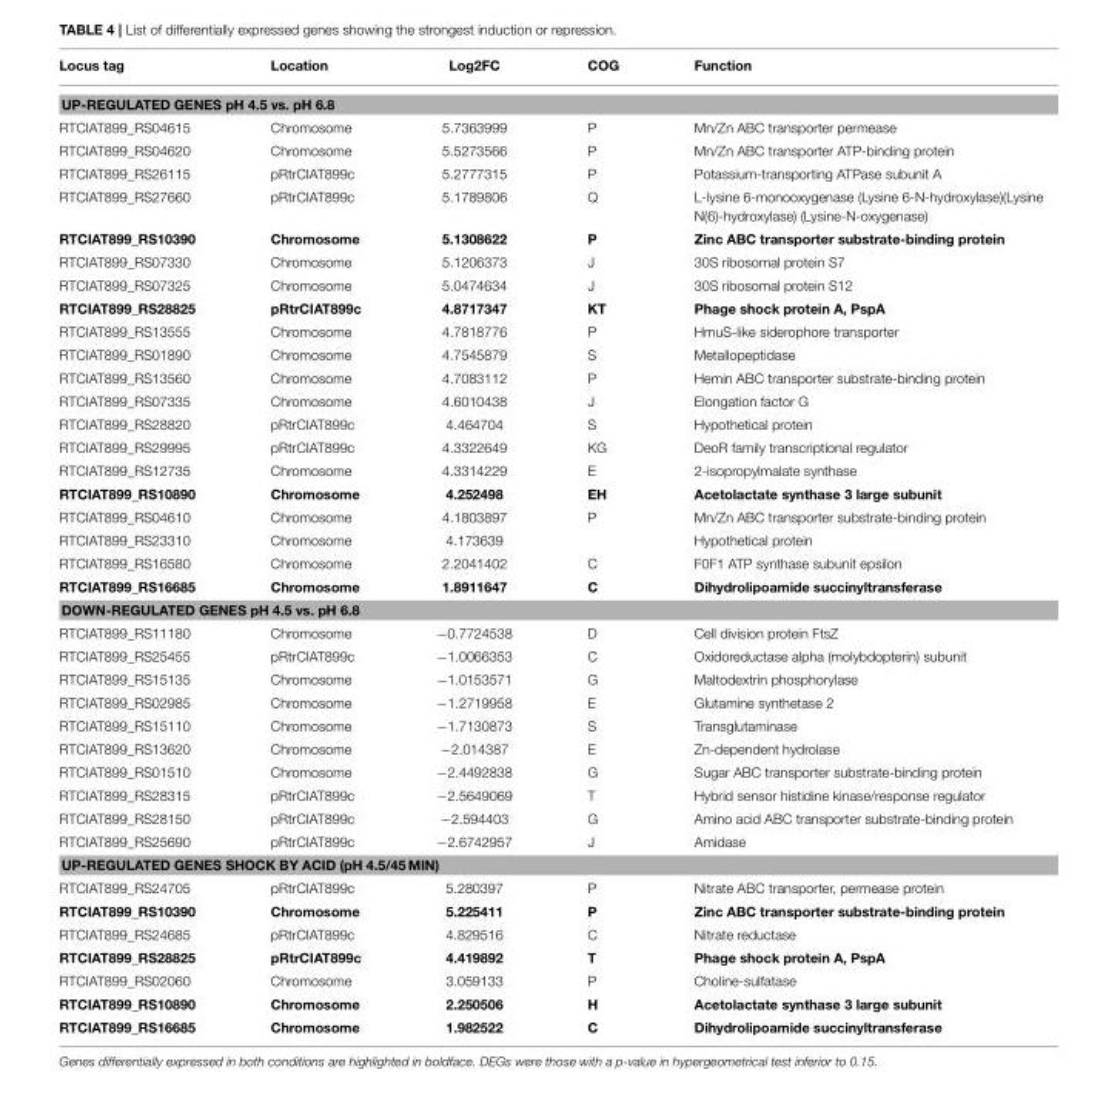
<table><thead><tr><td>Locus tag</td><td>Location</td><td>Log2FC</td><td>COG</td><td>Function</td></tr></thead><tbody><tr><td colspan="5">UP-REGULATED GENES pH 4.5 vs. pH 6.8</td></tr><tr><td>RTCIAT899_RS04615</td><td>Chromosome</td><td>5.7363999</td><td>P</td><td>Mn/Zn ABC transporter permease</td></tr><tr><td>RTCIAT899_RS04620</td><td>Chromosome</td><td>5.5273566</td><td>P</td><td>Mn/Zn ABC transporter ATP-binding protein</td></tr><tr><td>RTCIAT899_RS26115</td><td>pRtrCIAT899c</td><td>5.2777315</td><td>P</td><td>Potassium-transporting ATPase subunit A</td></tr><tr><td>RTCIAT899_RS27660</td><td>pRtrCIAT899c</td><td>5.1789806</td><td>Q</td><td>L-lysine 6-monooxygenase (Lysine 6-N-hydroxylase)(Lysine N(6)-hydroxylase) (Lysine-N-oxygenase)</td></tr><tr><td>RTCIAT899_RS10390</td><td>Chromosome</td><td>5.1308622</td><td>P</td><td>Zinc ABC transporter substrate-binding protein</td></tr><tr><td>RTCIAT899_RS07330</td><td>Chromosome</td><td>5.1206373</td><td>J</td><td>30S ribosomal protein S7</td></tr><tr><td>RTCIAT899_RS07325</td><td>Chromosome</td><td>5.0474634</td><td>J</td><td>30S ribosomal protein S12</td></tr><tr><td>RTCIAT899_RS28825</td><td>pRtrCIAT899c</td><td>4.8717347</td><td>KT</td><td>Phage shock protein A, PspA</td></tr><tr><td>RTCIAT899_RS13555</td><td>Chromosome</td><td>4.7818776</td><td>P</td><td>HmuS-like siderophore transporter</td></tr><tr><td>RTCIAT899_RS01890</td><td>Chromosome</td><td>4.7545879</td><td>S</td><td>Metallopeptidase</td></tr><tr><td>RTCIAT899_RS13560</td><td>Chromosome</td><td>4.7083112</td><td>P</td><td>Hemin ABC transporter substrate-binding protein</td></tr><tr><td>RTCIAT899_RS07335</td><td>Chromosome</td><td>4.6010438</td><td>J</td><td>Elongation factor G</td></tr><tr><td>RTCIAT899_RS28820</td><td>pRtrCIAT899c</td><td>4.464704</td><td>S</td><td>Hypothetical protein</td></tr><tr><td>RTCIAT899_RS29995</td><td>pRtrCIAT899c</td><td>4.3322649</td><td>KG</td><td>DeoR family transcriptional regulator</td></tr><tr><td>RTCIAT899_RS12735</td><td>Chromosome</td><td>4.3314229</td><td>E</td><td>2-isopropylmalate synthase</td></tr><tr><td>RTCIAT899_RS10890</td><td>Chromosome</td><td>4.252498</td><td>EH</td><td>Acetolactate synthase 3 large subunit</td></tr><tr><td>RTCIAT899_RS04610</td><td>Chromosome</td><td>4.1803897</td><td>P</td><td>Mn/Zn ABC transporter substrate-binding protein</td></tr><tr><td>RTCIAT899_RS23310</td><td>Chromosome</td><td>4.173639</td><td></td><td>Hypothetical protein</td></tr><tr><td>RTCIAT899_RS16580</td><td>Chromosome</td><td>2.2041402</td><td>C</td><td>F0F1 ATP synthase subunit epsilon</td></tr><tr><td>RTCIAT899_RS16685</td><td>Chromosome</td><td>1.8911647</td><td>C</td><td>Dihydrolipoamide succinyltransferase</td></tr><tr><td colspan="5">DOWN-REGULATED GENES pH 4.5 vs. pH 6.8</td></tr><tr><td>RTCIAT899_RS11180</td><td>Chromosome</td><td>−0.7724538</td><td>D</td><td>Cell division protein FtsZ</td></tr><tr><td>RTCIAT899_RS25455</td><td>pRtrCIAT899c</td><td>−1.0066353</td><td>C</td><td>Oxidoreductase alpha (molybdopterin) subunit</td></tr><tr><td>RTCIAT899_RS15135</td><td>Chromosome</td><td>−1.0153571</td><td>G</td><td>Maltodextrin phosphorylase</td></tr><tr><td>RTCIAT899_RS02985</td><td>Chromosome</td><td>−1.2719958</td><td>E</td><td>Glutamine synthetase 2</td></tr><tr><td>RTCIAT899_RS15110</td><td>Chromosome</td><td>−1.7130873</td><td>S</td><td>Transglutaminase</td></tr><tr><td>RTCIAT899_RS13620</td><td>Chromosome</td><td>−2.014387</td><td>E</td><td>Zn-dependent hydrolase</td></tr><tr><td>RTCIAT899_RS01510</td><td>Chromosome</td><td>−2.4492838</td><td>G</td><td>Sugar ABC transporter substrate-binding protein</td></tr><tr><td>RTCIAT899_RS28315</td><td>pRtrCIAT899c</td><td>−2.5649069</td><td>T</td><td>Hybrid sensor histidine kinase/response regulator</td></tr><tr><td>RTCIAT899_RS28150</td><td>pRtrCIAT899c</td><td>−2.594403</td><td>G</td><td>Amino acid ABC transporter substrate-binding protein</td></tr><tr><td>RTCIAT899_RS25690</td><td>pRtrCIAT899c</td><td>−2.6742957</td><td>J</td><td>Amidase</td></tr><tr><td colspan="5">UP-REGULATED GENES SHOCK BY ACID (pH 4.5/45 MIN)</td></tr><tr><td>RTCIAT899_RS24705</td><td>pRtrCIAT899c</td><td>5.280397</td><td>P</td><td>Nitrate ABC transporter, permease protein</td></tr><tr><td>RTCIAT899_RS10390</td><td>Chromosome</td><td>5.225411</td><td>P</td><td>Zinc ABC transporter substrate-binding protein</td></tr><tr><td>RTCIAT899_RS24685</td><td>pRtrCIAT899c</td><td>4.829516</td><td>C</td><td>Nitrate reductase</td></tr><tr><td>RTCIAT899_RS28825</td><td>pRtrCIAT899c</td><td>4.419892</td><td>T</td><td>Phage shock protein A, PspA</td></tr><tr><td>RTCIAT899_RS02060</td><td>Chromosome</td><td>3.059133</td><td>P</td><td>Choline-sulfatase</td></tr><tr><td>RTCIAT899_RS10890</td><td>Chromosome</td><td>2.250506</td><td>H</td><td>Acetolactate synthase 3 large subunit</td></tr><tr><td>RTCIAT899_RS16685</td><td>Chromosome</td><td>1.982522</td><td>C</td><td>Dihydrolipoamide succinyltransferase</td></tr></tbody></table>